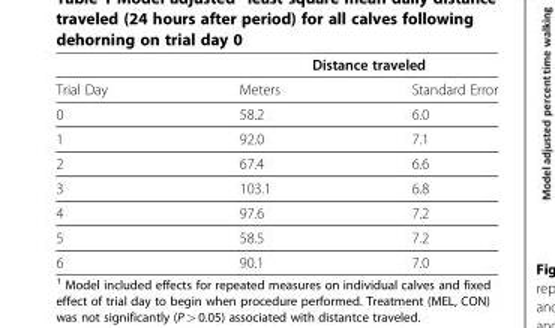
<table><thead><tr><td rowspan="2">Trial Day</td><td colspan="2">Distance traveled</td></tr><tr><td>Meters</td><td>Standard Error</td></tr></thead><tbody><tr><td>0</td><td>58.2</td><td>6.0</td></tr><tr><td>1</td><td>92.0</td><td>7.1</td></tr><tr><td>2</td><td>67.4</td><td>6.6</td></tr><tr><td>3</td><td>103.1</td><td>6.8</td></tr><tr><td>4</td><td>97.6</td><td>7.2</td></tr><tr><td>5</td><td>58.5</td><td>7.2</td></tr><tr><td>6</td><td>90.1</td><td>7.0</td></tr></tbody></table>